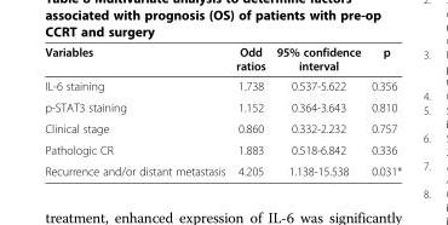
<table><thead><tr><td>Variables</td><td>Odd ratios</td><td>95% confidence interval</td><td>p</td></tr></thead><tbody><tr><td>IL-6 staining</td><td>1.738</td><td>0.537-5.622</td><td>0.356</td></tr><tr><td>p-STAT3 staining</td><td>1.152</td><td>0.364-3.643</td><td>0.810</td></tr><tr><td>Clinical stage</td><td>0.860</td><td>0.332-2.232</td><td>0.757</td></tr><tr><td>Pathologic CR</td><td>1.883</td><td>0.518-6.842</td><td>0.336</td></tr><tr><td>Recurrence and/or distant metastasis</td><td>4.205</td><td>1.138-15.538</td><td>0.031*</td></tr></tbody></table>